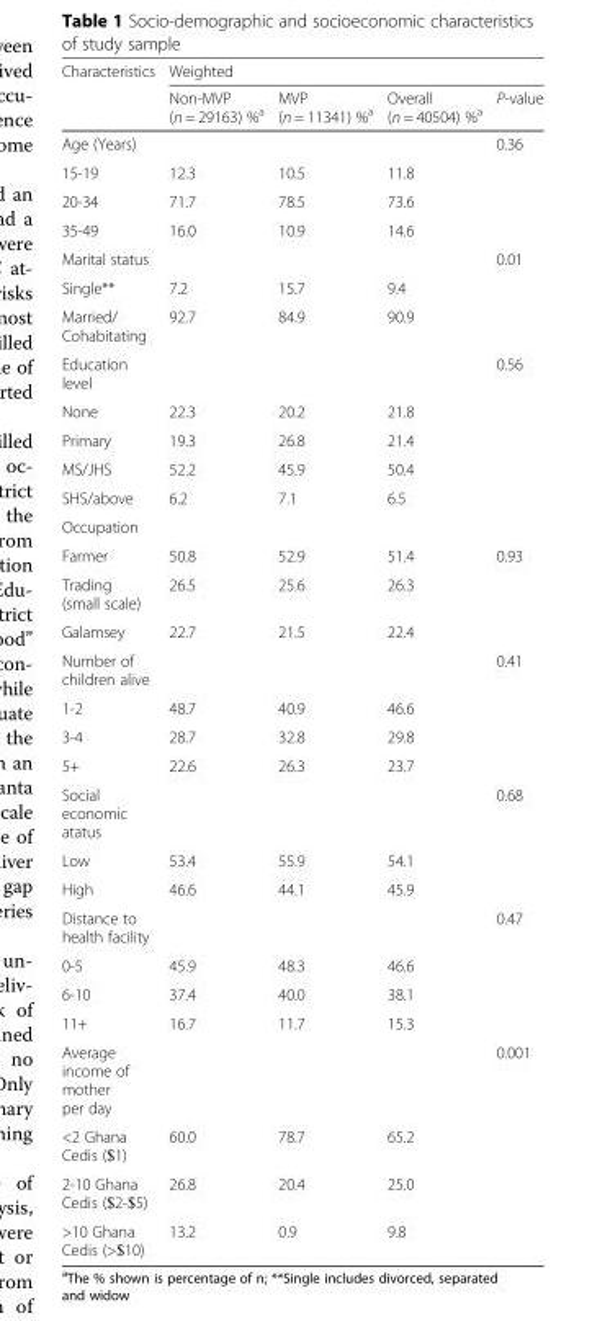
<table><thead><tr><td rowspan="2">Characteristics</td><td colspan="4">Weighted</td></tr><tr><td>Non-MVP (n = 29163) %<sup>a</sup></td><td>MVP (n = 11341) %<sup>a</sup></td><td>Overall (n = 40504) %<sup>a</sup></td><td>P-value</td></tr></thead><tbody><tr><td>Age (Years)</td><td></td><td></td><td></td><td>0.36</td></tr><tr><td>15-19</td><td>12.3</td><td>10.5</td><td>11.8</td><td></td></tr><tr><td>20-34</td><td>71.7</td><td>78.5</td><td>73.6</td><td></td></tr><tr><td>35-49</td><td>16.0</td><td>10.9</td><td>14.6</td><td></td></tr><tr><td>Marital status</td><td></td><td></td><td></td><td>0.01</td></tr><tr><td>Single**</td><td>7.2</td><td>15.7</td><td>9.4</td><td></td></tr><tr><td>Married/ Cohabitating</td><td>92.7</td><td>84.9</td><td>90.9</td><td></td></tr><tr><td>Education level</td><td></td><td></td><td></td><td>0.56</td></tr><tr><td>None</td><td>22.3</td><td>20.2</td><td>21.8</td><td></td></tr><tr><td>Primary</td><td>19.3</td><td>26.8</td><td>21.4</td><td></td></tr><tr><td>MS/JHS</td><td>52.2</td><td>45.9</td><td>50.4</td><td></td></tr><tr><td>SHS/above</td><td>6.2</td><td>7.1</td><td>6.5</td><td></td></tr><tr><td colspan="5">Occupation</td></tr><tr><td>Farmer</td><td>50.8</td><td>52.9</td><td>51.4</td><td>0.93</td></tr><tr><td>Trading (small scale)</td><td>26.5</td><td>25.6</td><td>26.3</td><td></td></tr><tr><td>Galamsey</td><td>22.7</td><td>21.5</td><td>22.4</td><td></td></tr><tr><td>Number of children alive</td><td></td><td></td><td></td><td>0.41</td></tr><tr><td>1-2</td><td>48.7</td><td>40.9</td><td>46.6</td><td></td></tr><tr><td>3-4</td><td>28.7</td><td>32.8</td><td>29.8</td><td></td></tr><tr><td>5+</td><td>22.6</td><td>26.3</td><td>23.7</td><td></td></tr><tr><td>Social economic atatus</td><td></td><td></td><td></td><td>0.68</td></tr><tr><td>Low</td><td>53.4</td><td>55.9</td><td>54.1</td><td></td></tr><tr><td>High</td><td>46.6</td><td>44.1</td><td>45.9</td><td></td></tr><tr><td>Distance to health facility</td><td></td><td></td><td></td><td>0.47</td></tr><tr><td>0-5</td><td>45.9</td><td>48.3</td><td>46.6</td><td></td></tr><tr><td>6-10</td><td>37.4</td><td>40.0</td><td>38.1</td><td></td></tr><tr><td>11+</td><td>16.7</td><td>11.7</td><td>15.3</td><td></td></tr><tr><td>Average income of mother per day</td><td></td><td></td><td></td><td>0.001</td></tr><tr><td>&lt;2 Ghana Cedis ($1)</td><td>60.0</td><td>78.7</td><td>65.2</td><td></td></tr><tr><td>2-10 Ghana Cedis ($2-$5)</td><td>26.8</td><td>20.4</td><td>25.0</td><td></td></tr><tr><td>&gt;10 Ghana Cedis (&gt;$10)</td><td>13.2</td><td>0.9</td><td>9.8</td><td></td></tr></tbody></table>